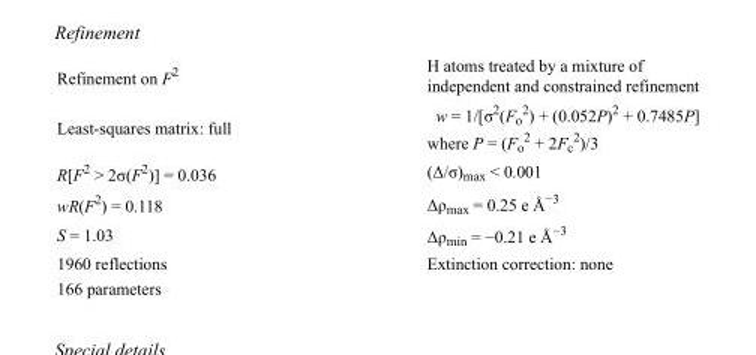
<table><tbody><tr><td>Refinement on F<sup>2</sup></td><td>H atoms treated by a mixture of independent and constrained refinement</td></tr><tr><td>Least-squares matrix: full</td><td>w = 1/[σ<sup>2</sup>(F<sub>o</sub> <sup>2</sup>) + (0.052P)<sup>2</sup> + 0.7485P] where P = (F<sub>o</sub> <sup>2</sup> + 2F<sub>c</sub> <sup>2</sup>)/3</td></tr><tr><td>R[F<sup>2</sup> &gt; 2σ(F<sup>2</sup>)] = 0.036</td><td>(Δ/σ)<sub>max</sub> &lt; 0.001</td></tr><tr><td>wR(F<sup>2</sup>) = 0.118</td><td>Δρ<sub>max</sub> = 0.25 e Å<sup>−3</sup></td></tr><tr><td>S = 1.03</td><td>Δρ<sub>min</sub> = −0.21 e Å<sup>−3</sup></td></tr><tr><td>1960 reflections</td><td>Extinction correction: none</td></tr><tr><td>166 parameters</td><td></td></tr></tbody></table>